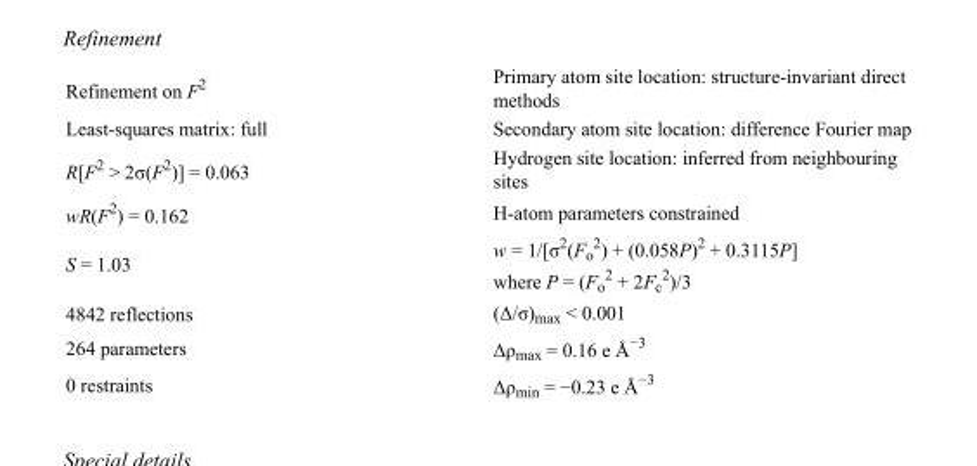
<table><tbody><tr><td>Refinement on F<sup>2</sup></td><td>Primary atom site location: structure-invariant direct methods</td></tr><tr><td>Least-squares matrix: full</td><td>Secondary atom site location: difference Fourier map</td></tr><tr><td>R[F<sup>2</sup> &gt; 2σ(F<sup>2</sup>)] = 0.063</td><td>Hydrogen site location: inferred from neighbouring sites</td></tr><tr><td>wR(F<sup>2</sup>) = 0.162</td><td>H-atom parameters constrained</td></tr><tr><td>S = 1.03</td><td>w = 1/[σ<sup>2</sup>(F<sub>o</sub> <sup>2</sup>) + (0.058P)<sup>2</sup> + 0.3115P] where P = (F<sub>o</sub> <sup>2</sup> + 2F<sub>c</sub> <sup>2</sup>)/3</td></tr><tr><td>4842 reflections</td><td>(Δ/σ)<sub>max</sub> &lt; 0.001</td></tr><tr><td>264 parameters</td><td>Δρ<sub>max</sub> = 0.16 e Å<sup>−3</sup></td></tr><tr><td>0 restraints</td><td>Δρ<sub>min</sub> = −0.23 e Å<sup>−3</sup></td></tr></tbody></table>